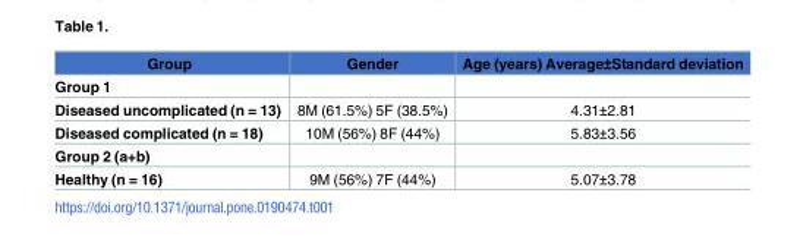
<table><thead><tr><td>Group</td><td>Gender</td><td>Age (years) Average±Standard deviation</td></tr></thead><tbody><tr><td colspan="3">Group 1</td></tr><tr><td>Diseased uncomplicated (n = 13)</td><td>8M (61.5%) 5F (38.5%)</td><td>4.31±2.81</td></tr><tr><td>Diseased complicated (n = 18)</td><td>10M (56%) 8F (44%)</td><td>5.83±3.56</td></tr><tr><td colspan="3">Group 2 (a+b)</td></tr><tr><td>Healthy (n = 16)</td><td>9M (56%) 7F (44%)</td><td>5.07±3.78</td></tr></tbody></table>